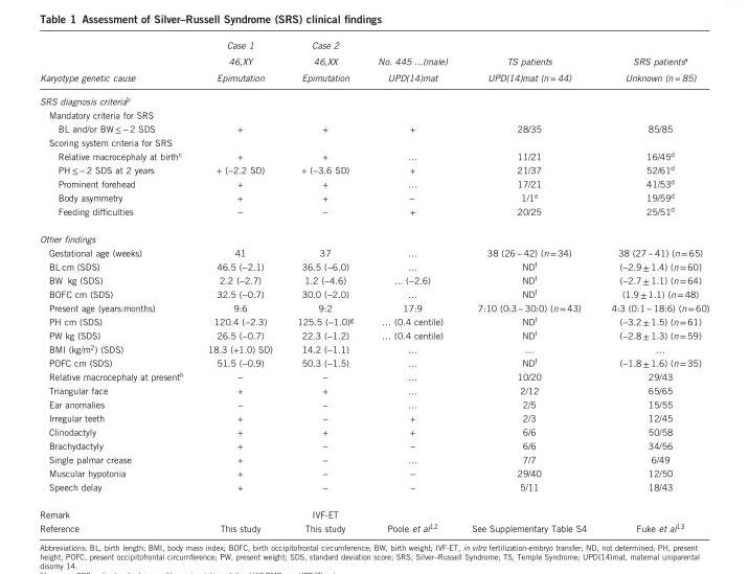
<table><thead><tr><td rowspan="2">Karyotype genetic cause</td><td rowspan="2">Case 1 46,XY Epimutation</td><td rowspan="2">Case 2 46,XX Epimutation</td><td rowspan="2">No. 445 ...(male) UPD(14)mat</td><td rowspan="2">TS patients UPD(14)mat (n= 44)</td><td rowspan="2">SRS patients<sup>a</sup> Unknown (n= 85)</td></tr><tr></tr></thead><tbody><tr><td colspan="6">SRS diagnosis criteria<sup>b</sup></td></tr><tr><td colspan="6">Mandatory criteria for SRS</td></tr><tr><td>BL and/or BW≤ − 2 SDS</td><td>+</td><td>+</td><td>+</td><td>28/35</td><td>85/85</td></tr><tr><td colspan="6">Scoring system criteria for SRS</td></tr><tr><td>Relative macrocephaly at birth<sup>c</sup></td><td>+</td><td>+</td><td>…</td><td>11/21</td><td>16/45<sup>d</sup></td></tr><tr><td>PH≤ − 2 SDS at 2 years</td><td>+ (−2.2 SD)</td><td>+ (−3.6 SD)</td><td>+</td><td>21/37</td><td>52/61<sup>d</sup></td></tr><tr><td>Prominent forehead</td><td>+</td><td>+</td><td>…</td><td>17/21</td><td>41/53<sup>d</sup></td></tr><tr><td>Body asymmetry</td><td>+</td><td>+</td><td>−</td><td>1/1<sup>e</sup></td><td>19/59<sup>d</sup></td></tr><tr><td>Feeding difficulties</td><td>−</td><td>−</td><td>+</td><td>20/25</td><td>25/51<sup>d</sup></td></tr><tr><td colspan="6">Other findings</td></tr><tr><td>Gestational age (weeks)</td><td>41</td><td>37</td><td>…</td><td>38 (26 ~ 42) (n = 34)</td><td>38 (27 ~ 41) (n = 65)</td></tr><tr><td>BL cm (SDS)</td><td>46.5 (−2.1)</td><td>36.5 (−6.0)</td><td>…</td><td>ND<sup>f</sup></td><td>(−2.9 ± 1.4) (n = 60)</td></tr><tr><td>BW kg (SDS)</td><td>2.2 (−2.7)</td><td>1.2 (−4.6)</td><td>... (−2.6)</td><td>ND<sup>f</sup></td><td>(−2.7 ± 1.1) (n = 64)</td></tr><tr><td>BOFC cm (SDS)</td><td>32.5 (−0.7)</td><td>30.0 (−2.0)</td><td>…</td><td>ND<sup>f</sup></td><td>(1.9 ± 1.1) (n = 48)</td></tr><tr><td>Present age (years:months)</td><td>9:6</td><td>9:2</td><td>17:9</td><td>7:10 (0:3 ~ 30:0) (n = 43)</td><td>4:3 (0:1~ 18:6) (n = 60)</td></tr><tr><td>PH cm (SDS)</td><td>120.4 (−2.3)</td><td>125.5 (−1.0)<sup>g</sup></td><td>… (0.4 centile)</td><td>ND<sup>f</sup></td><td>(−3.2 ± 1.5) (n = 61)</td></tr><tr><td>PW kg (SDS)</td><td>26.5 (−0.7)</td><td>22.3 (−1.2)</td><td>… (0.4 centile)</td><td>ND<sup>f</sup></td><td>(−2.8 ± 1.3) (n = 59)</td></tr><tr><td>BMI (kg/m<sup>2</sup>) (SDS)</td><td>18.3 (+1.0) SD)</td><td>14.2 (−1.1)</td><td>…</td><td>…</td><td>…</td></tr><tr><td>POFC cm (SDS)</td><td>51.5 (−0.9)</td><td>50.3 (−1.5)</td><td>…</td><td>ND<sup>f</sup></td><td>(−1.8 ± 1.6) (n = 35)</td></tr><tr><td>Relative macrocephaly at present<sup>h</sup></td><td>−</td><td>−</td><td>…</td><td>10/20</td><td>29/43</td></tr><tr><td>Triangular face</td><td>+</td><td>+</td><td>…</td><td>2/12</td><td>65/65</td></tr><tr><td>Ear anomalies</td><td>−</td><td>−</td><td>…</td><td>2/5</td><td>15/55</td></tr><tr><td>Irregular teeth</td><td>+</td><td>−</td><td>+</td><td>2/3</td><td>12/45</td></tr><tr><td>Clinodactyly</td><td>+</td><td>+</td><td>+</td><td>6/6</td><td>50/58</td></tr><tr><td>Brachydactyly</td><td>+</td><td>−</td><td>−</td><td>6/6</td><td>34/56</td></tr><tr><td>Single palmar crease</td><td>+</td><td>−</td><td>…</td><td>7/7</td><td>6/49</td></tr><tr><td>Muscular hypotonia</td><td>+</td><td>−</td><td>−</td><td>29/40</td><td>12/50</td></tr><tr><td>Speech delay</td><td>+</td><td>−</td><td>−</td><td>5/11</td><td>18/43</td></tr><tr><td>Remark</td><td></td><td>IVF-ET</td><td></td><td></td><td></td></tr><tr><td>Reference</td><td>This study</td><td>This study</td><td>Poole et al<sup>12</sup></td><td>See Supplementary Table S4</td><td>Fuke et al<sup>13</sup></td></tr></tbody></table>